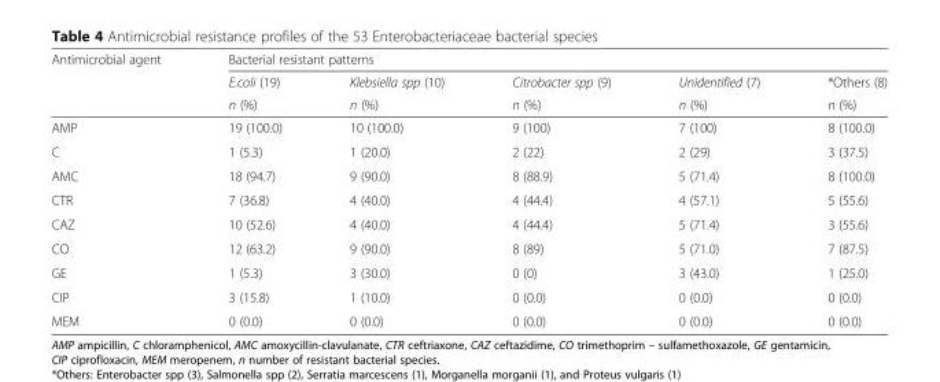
<table><thead><tr><td rowspan="3">Antimicrobial agent</td><td colspan="5">Bacterial resistant patterns</td></tr><tr><td rowspan="2">E.coli (19) n (%)</td><td rowspan="2">Klebsiella spp (10) n (%)</td><td rowspan="2">Citrobacter spp (9) n (%)</td><td rowspan="2">Unidentified (7) n (%)</td><td rowspan="2">*Others (8) n (%)</td></tr><tr></tr></thead><tbody><tr><td>AMP</td><td>19 (100.0)</td><td>10 (100.0)</td><td>9 (100)</td><td>7 (100)</td><td>8 (100.0)</td></tr><tr><td>C</td><td>1 (5.3)</td><td>1 (20.0)</td><td>2 (22)</td><td>2 (29)</td><td>3 (37.5)</td></tr><tr><td>AMC</td><td>18 (94.7)</td><td>9 (90.0)</td><td>8 (88.9)</td><td>5 (71.4)</td><td>8 (100.0)</td></tr><tr><td>CTR</td><td>7 (36.8)</td><td>4 (40.0)</td><td>4 (44.4)</td><td>4 (57.1)</td><td>5 (55.6)</td></tr><tr><td>CAZ</td><td>10 (52.6)</td><td>4 (40.0)</td><td>4 (44.4)</td><td>5 (71.4)</td><td>3 (55.6)</td></tr><tr><td>CO</td><td>12 (63.2)</td><td>9 (90.0)</td><td>8 (89)</td><td>5 (71.0)</td><td>7 (87.5)</td></tr><tr><td>GE</td><td>1 (5.3)</td><td>3 (30.0)</td><td>0 (0)</td><td>3 (43.0)</td><td>1 (25.0)</td></tr><tr><td>CIP</td><td>3 (15.8)</td><td>1 (10.0)</td><td>0 (0.0)</td><td>0 (0.0)</td><td>0 (0.0)</td></tr><tr><td>MEM</td><td>0 (0.0)</td><td>0 (0.0)</td><td>0 (0.0)</td><td>0 (0.0)</td><td>0 (0.0)</td></tr></tbody></table>